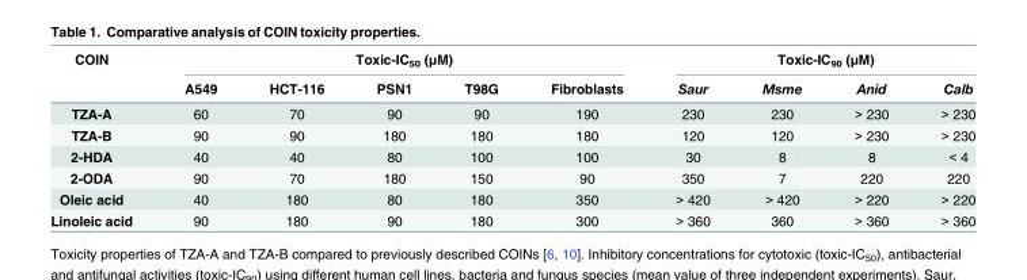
<table><thead><tr><td rowspan="2">COIN</td><td colspan="5">Toxic-IC<sub>50</sub> (μM)</td><td colspan="4">Toxic-IC<sub>90</sub> (μM)</td></tr><tr><td>A549</td><td>HCT-116</td><td>PSN1</td><td>T98G</td><td>Fibroblasts</td><td>Saur</td><td>Msme</td><td>Anid</td><td>Calb</td></tr></thead><tbody><tr><td>TZA-A</td><td>60</td><td>70</td><td>90</td><td>90</td><td>190</td><td>230</td><td>230</td><td>&gt; 230</td><td>&gt; 230</td></tr><tr><td>TZA-B</td><td>90</td><td>90</td><td>180</td><td>180</td><td>180</td><td>120</td><td>120</td><td>&gt; 230</td><td>&gt; 230</td></tr><tr><td>2-HDA</td><td>40</td><td>40</td><td>80</td><td>100</td><td>100</td><td>30</td><td>8</td><td>8</td><td>&lt; 4</td></tr><tr><td>2-ODA</td><td>90</td><td>70</td><td>180</td><td>150</td><td>90</td><td>350</td><td>7</td><td>220</td><td>220</td></tr><tr><td>Oleic acid</td><td>40</td><td>180</td><td>80</td><td>180</td><td>350</td><td>&gt; 420</td><td>&gt; 420</td><td>&gt; 220</td><td>&gt; 220</td></tr><tr><td>Linoleic acid</td><td>90</td><td>180</td><td>90</td><td>180</td><td>300</td><td>&gt; 360</td><td>360</td><td>&gt; 360</td><td>&gt; 360</td></tr></tbody></table>